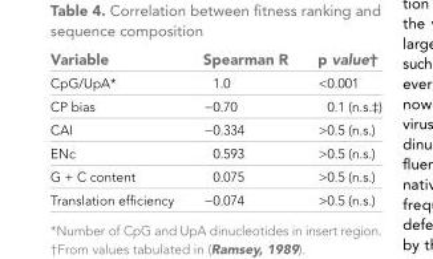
<table><thead><tr><td>Variable</td><td>Spearman R</td><td>p value†</td></tr></thead><tbody><tr><td>CpG/UpA*</td><td>1.0</td><td>&lt;0.001</td></tr><tr><td>CP bias</td><td>−0.70</td><td>0.1 (n.s.‡)</td></tr><tr><td>CAI</td><td>−0.334</td><td>&gt;0.5 (n.s.)</td></tr><tr><td>ENc</td><td>0.593</td><td>&gt;0.5 (n.s.)</td></tr><tr><td>G + C content</td><td>0.075</td><td>&gt;0.5 (n.s.)</td></tr><tr><td>Translation efficiency</td><td>−0.074</td><td>&gt;0.5 (n.s.)</td></tr></tbody></table>